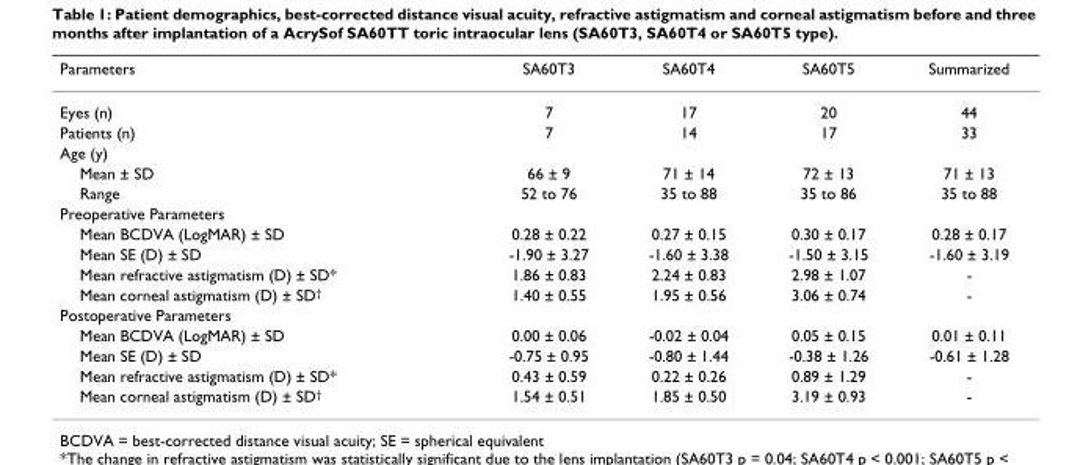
<table><thead><tr><td>Parameters</td><td>SA60T3</td><td>SA60T4</td><td>SA60T5</td><td>Summarized</td></tr></thead><tbody><tr><td>Eyes (n)</td><td>7</td><td>17</td><td>20</td><td>44</td></tr><tr><td>Patients (n)</td><td>7</td><td>14</td><td>17</td><td>33</td></tr><tr><td colspan="5">Age (y)</td></tr><tr><td>Mean ± SD</td><td>66 ± 9</td><td>71 ± 14</td><td>72 ± 13</td><td>71 ± 13</td></tr><tr><td>Range</td><td>52 to 76</td><td>35 to 88</td><td>35 to 86</td><td>35 to 88</td></tr><tr><td colspan="5">Preoperative Parameters</td></tr><tr><td>Mean BCDVA (LogMAR) ± SD</td><td>0.28 ± 0.22</td><td>0.27 ± 0.15</td><td>0.30 ± 0.17</td><td>0.28 ± 0.17</td></tr><tr><td>Mean SE (D) ± SD</td><td>-1.90 ± 3.27</td><td>-1.60 ± 3.38</td><td>-1.50 ± 3.15</td><td>-1.60 ± 3.19</td></tr><tr><td>Mean refractive astigmatism (D) ± SD*</td><td>1.86 ± 0.83</td><td>2.24 ± 0.83</td><td>2.98 ± 1.07</td><td>-</td></tr><tr><td>Mean corneal astigmatism (D) ± SD<sup>†</sup></td><td>1.40 ± 0.55</td><td>1.95 ± 0.56</td><td>3.06 ± 0.74</td><td>-</td></tr><tr><td colspan="5">Postoperative Parameters</td></tr><tr><td>Mean BCDVA (LogMAR) ± SD</td><td>0.00 ± 0.06</td><td>-0.02 ± 0.04</td><td>0.05 ± 0.15</td><td>0.01 ± 0.11</td></tr><tr><td>Mean SE (D) ± SD</td><td>-0.75 ± 0.95</td><td>-0.80 ± 1.44</td><td>-0.38 ± 1.26</td><td>-0.61 ± 1.28</td></tr><tr><td>Mean refractive astigmatism (D) ± SD*</td><td>0.43 ± 0.59</td><td>0.22 ± 0.26</td><td>0.89 ± 1.29</td><td>-</td></tr><tr><td>Mean corneal astigmatism (D) ± SD<sup>†</sup></td><td>1.54 ± 0.51</td><td>1.85 ± 0.50</td><td>3.19 ± 0.93</td><td>-</td></tr></tbody></table>